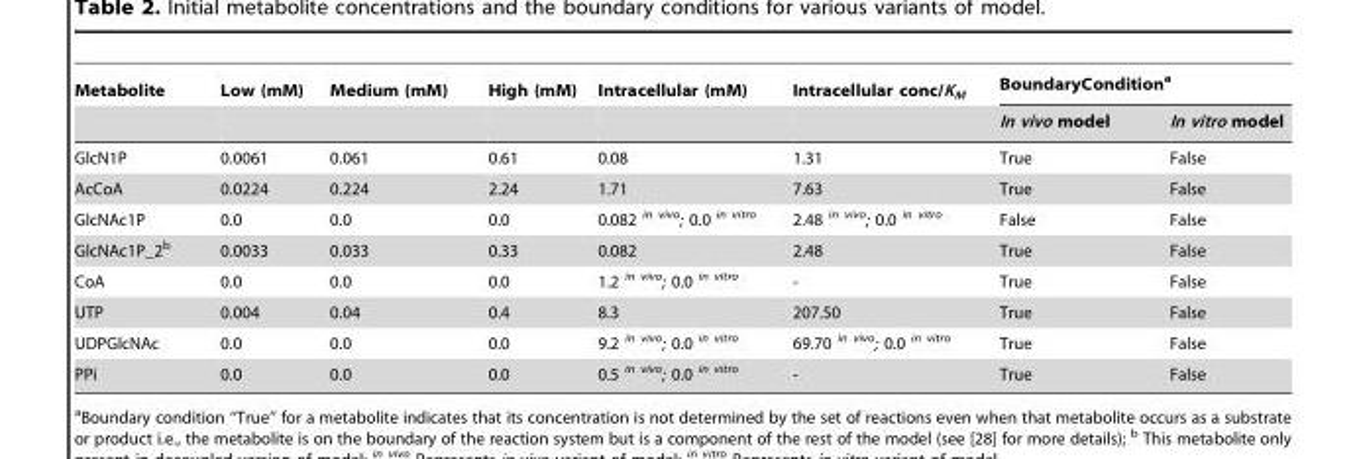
<table><thead><tr><td rowspan="2">Metabolite</td><td rowspan="2">Low (mM)</td><td rowspan="2">Medium (mM)</td><td rowspan="2">High (mM)</td><td rowspan="2">Intracellular (mM)</td><td rowspan="2">Intracellular conc/K<sub>M</sub></td><td colspan="2">BoundaryCondition<sup>a</sup></td></tr><tr><td>In vivo model</td><td>In vitro model</td></tr></thead><tbody><tr><td>GlcN1P</td><td>0.0061</td><td>0.061</td><td>0.61</td><td>0.08</td><td>1.31</td><td>True</td><td>False</td></tr><tr><td>AcCoA</td><td>0.0224</td><td>0.224</td><td>2.24</td><td>1.71</td><td>7.63</td><td>True</td><td>False</td></tr><tr><td>GlcNAc1P</td><td>0.0</td><td>0.0</td><td>0.0</td><td>0.082 <sup>in vivo</sup>; 0.0 <sup>in vitro</sup></td><td>2.48 <sup>in vivo</sup>; 0.0 <sup>in vitro</sup></td><td>False</td><td>False</td></tr><tr><td>GlcNAc1P_2<sup>b</sup></td><td>0.0033</td><td>0.033</td><td>0.33</td><td>0.082</td><td>2.48</td><td>True</td><td>False</td></tr><tr><td>CoA</td><td>0.0</td><td>0.0</td><td>0.0</td><td>1.2 <sup>in vivo</sup>; 0.0 <sup>in vitro</sup></td><td>-</td><td>True</td><td>False</td></tr><tr><td>UTP</td><td>0.004</td><td>0.04</td><td>0.4</td><td>8.3</td><td>207.50</td><td>True</td><td>False</td></tr><tr><td>UDPGlcNAc</td><td>0.0</td><td>0.0</td><td>0.0</td><td>9.2 <sup>in vivo</sup>; 0.0 <sup>in vitro</sup></td><td>69.70 <sup>in vivo</sup>; 0.0 <sup>in vitro</sup></td><td>True</td><td>False</td></tr><tr><td>PPi</td><td>0.0</td><td>0.0</td><td>0.0</td><td>0.5 <sup>in vivo</sup>; 0.0 <sup>in vitro</sup></td><td>-</td><td>True</td><td>False</td></tr></tbody></table>